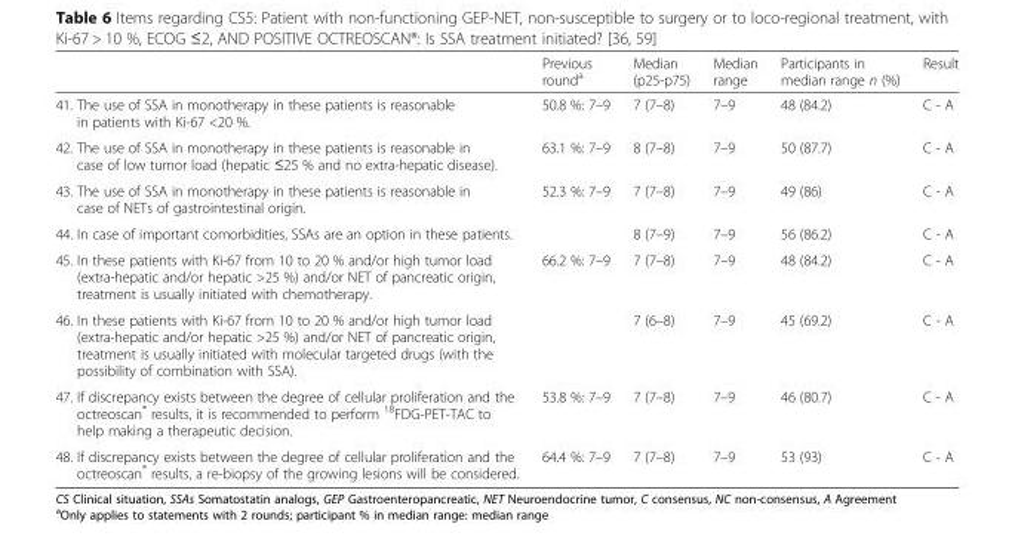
<table><thead><tr><td></td><td>Previous round<sup>a</sup></td><td>Median (p25-p75)</td><td>Median range</td><td>Participants in median range n (%)</td><td>Result</td></tr></thead><tbody><tr><td>41. The use of SSA in monotherapy in these patients is reasonable in patients with Ki-67 &lt;20 %.</td><td>50.8 %: 7–9</td><td>7 (7–8)</td><td>7–9</td><td>48 (84.2)</td><td>C - A</td></tr><tr><td>42. The use of SSA in monotherapy in these patients is reasonable in case of low tumor load (hepatic ≤25 % and no extra-hepatic disease).</td><td>63.1 %: 7–9</td><td>8 (7–8)</td><td>7–9</td><td>50 (87.7)</td><td>C - A</td></tr><tr><td>43. The use of SSA in monotherapy in these patients is reasonable in case of NETs of gastrointestinal origin.</td><td>52.3 %: 7–9</td><td>7 (7–8)</td><td>7–9</td><td>49 (86)</td><td>C - A</td></tr><tr><td>44. In case of important comorbidities, SSAs are an option in these patients.</td><td></td><td>8 (7–9)</td><td>7–9</td><td>56 (86.2)</td><td>C - A</td></tr><tr><td>45. In these patients with Ki-67 from 10 to 20 % and/or high tumor load (extra-hepatic and/or hepatic &gt;25 %) and/or NET of pancreatic origin, treatment is usually initiated with chemotherapy.</td><td>66.2 %: 7–9</td><td>7 (7–8)</td><td>7–9</td><td>48 (84.2)</td><td>C - A</td></tr><tr><td>46. In these patients with Ki-67 from 10 to 20 % and/or high tumor load (extra-hepatic and/or hepatic &gt;25 %) and/or NET of pancreatic origin, treatment is usually initiated with molecular targeted drugs (with the possibility of combination with SSA).</td><td></td><td>7 (6–8)</td><td>7–9</td><td>45 (69.2)</td><td>C - A</td></tr><tr><td>47. If discrepancy exists between the degree of cellular proliferation and the octreoscan<sup>®</sup> results, it is recommended to perform <sup>18</sup>FDG-PET-TAC to help making a therapeutic decision.</td><td>53.8 %: 7–9</td><td>7 (7–8)</td><td>7–9</td><td>46 (80.7)</td><td>C - A</td></tr><tr><td>48. If discrepancy exists between the degree of cellular proliferation and the octreoscan<sup>®</sup> results, a re-biopsy of the growing lesions will be considered.</td><td>64.4 %: 7–9</td><td>7 (7–8)</td><td>7–9</td><td>53 (93)</td><td>C - A</td></tr></tbody></table>